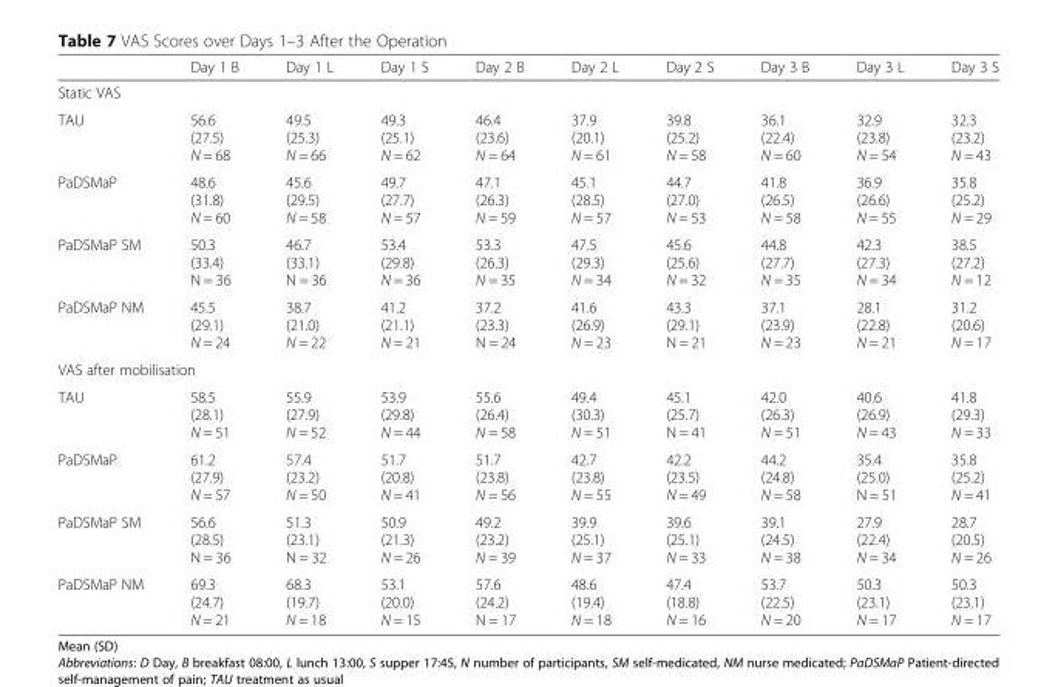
<table><thead><tr><td></td><td>Day 1 B</td><td>Day 1 L</td><td>Day 1 S</td><td>Day 2 B</td><td>Day 2 L</td><td>Day 2 S</td><td>Day 3 B</td><td>Day 3 L</td><td>Day 3 S</td></tr></thead><tbody><tr><td colspan="10">Static VAS</td></tr><tr><td>TAU</td><td>56.6 (27.5) N = 68</td><td>49.5 (25.3) N = 66</td><td>49.3 (25.1) N = 62</td><td>46.4 (23.6) N = 64</td><td>37.9 (20.1) N = 61</td><td>39.8 (25.2) N = 58</td><td>36.1 (22.4) N = 60</td><td>32.9 (23.8) N = 54</td><td>32.3 (23.2) N = 43</td></tr><tr><td>PaDSMaP</td><td>48.6 (31.8) N = 60</td><td>45.6 (29.5) N = 58</td><td>49.7 (27.7) N = 57</td><td>47.1 (26.3) N = 59</td><td>45.1 (28.5) N = 57</td><td>44.7 (27.0) N = 53</td><td>41.8 (26.5) N = 58</td><td>36.9 (26.6) N = 55</td><td>35.8 (25.2) N = 29</td></tr><tr><td>PaDSMaP SM</td><td>50.3 (33.4) N = 36</td><td>46.7 (33.1) N = 36</td><td>53.4 (29.8) N = 36</td><td>53.3 (26.3) N = 35</td><td>47.5 (29.3) N = 34</td><td>45.6 (25.6) N = 32</td><td>44.8 (27.7) N = 35</td><td>42.3 (27.3) N = 34</td><td>38.5 (27.2) N = 12</td></tr><tr><td>PaDSMaP NM</td><td>45.5 (29.1) N = 24</td><td>38.7 (21.0) N = 22</td><td>41.2 (21.1) N = 21</td><td>37.2 (23.3) N = 24</td><td>41.6 (26.9) N = 23</td><td>43.3 (29.1) N = 21</td><td>37.1 (23.9) N = 23</td><td>28.1 (22.8) N = 21</td><td>31.2 (20.6) N = 17</td></tr><tr><td colspan="10">VAS after mobilisation</td></tr><tr><td>TAU</td><td>58.5 (28.1) N = 51</td><td>55.9 (27.9) N = 52</td><td>53.9 (29.8) N = 44</td><td>55.6 (26.4) N = 58</td><td>49.4 (30.3) N = 51</td><td>45.1 (25.7) N = 41</td><td>42.0 (26.3) N = 51</td><td>40.6 (26.9) N = 43</td><td>41.8 (29.3) N = 33</td></tr><tr><td>PaDSMaP</td><td>61.2 (27.9) N = 57</td><td>57.4 (23.2) N = 50</td><td>51.7 (20.8) N = 41</td><td>51.7 (23.8) N = 56</td><td>42.7 (23.8) N = 55</td><td>42.2 (23.5) N = 49</td><td>44.2 (24.8) N = 58</td><td>35.4 (25.0) N = 51</td><td>35.8 (25.2) N = 41</td></tr><tr><td>PaDSMaP SM</td><td>56.6 (28.5) N = 36</td><td>51.3 (23.1) N = 32</td><td>50.9 (21.3) N = 26</td><td>49.2 (23.2) N = 39</td><td>39.9 (25.1) N = 37</td><td>39.6 (25.1) N = 33</td><td>39.1 (24.5) N = 38</td><td>27.9 (22.4) N = 34</td><td>28.7 (20.5) N = 26</td></tr><tr><td>PaDSMaP NM</td><td>69.3 (24.7) N = 21</td><td>68.3 (19.7) N = 18</td><td>53.1 (20.0) N = 15</td><td>57.6 (24.2) N = 17</td><td>48.6 (19.4) N = 18</td><td>47.4 (18.8) N = 16</td><td>53.7 (22.5) N = 20</td><td>50.3 (23.1) N = 17</td><td>50.3 (23.1) N = 17</td></tr></tbody></table>